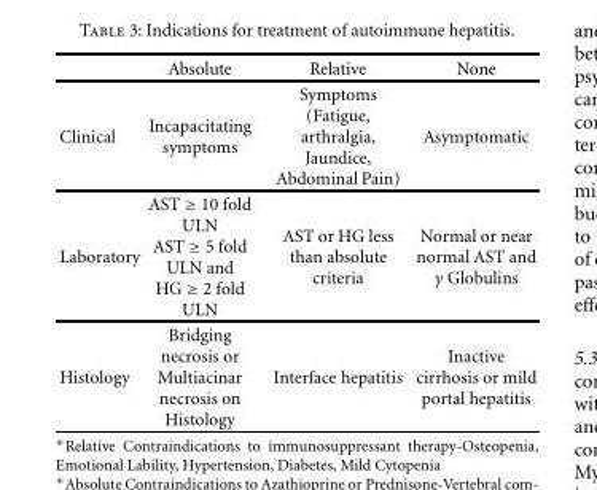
<table><thead><tr><td></td><td>Absolute</td><td>Relative</td><td>None</td></tr></thead><tbody><tr><td>Clinical</td><td>Incapacitating symptoms</td><td>Symptoms (Fatigue, arthralgia, Jaundice, Abdominal Pain)</td><td>Asymptomatic</td></tr><tr><td>Laboratory</td><td>AST ≥ 10 fold ULN AST ≥ 5 fold ULN and HG ≥ 2 fold ULN</td><td>AST or HG less than absolute criteria</td><td>Normal or near normal AST and γ Globulins</td></tr><tr><td>Histology</td><td>Bridging necrosis or Multiacinar necrosis on Histology</td><td>Interface hepatitis</td><td>Inactive cirrhosis or mild portal hepatitis</td></tr></tbody></table>